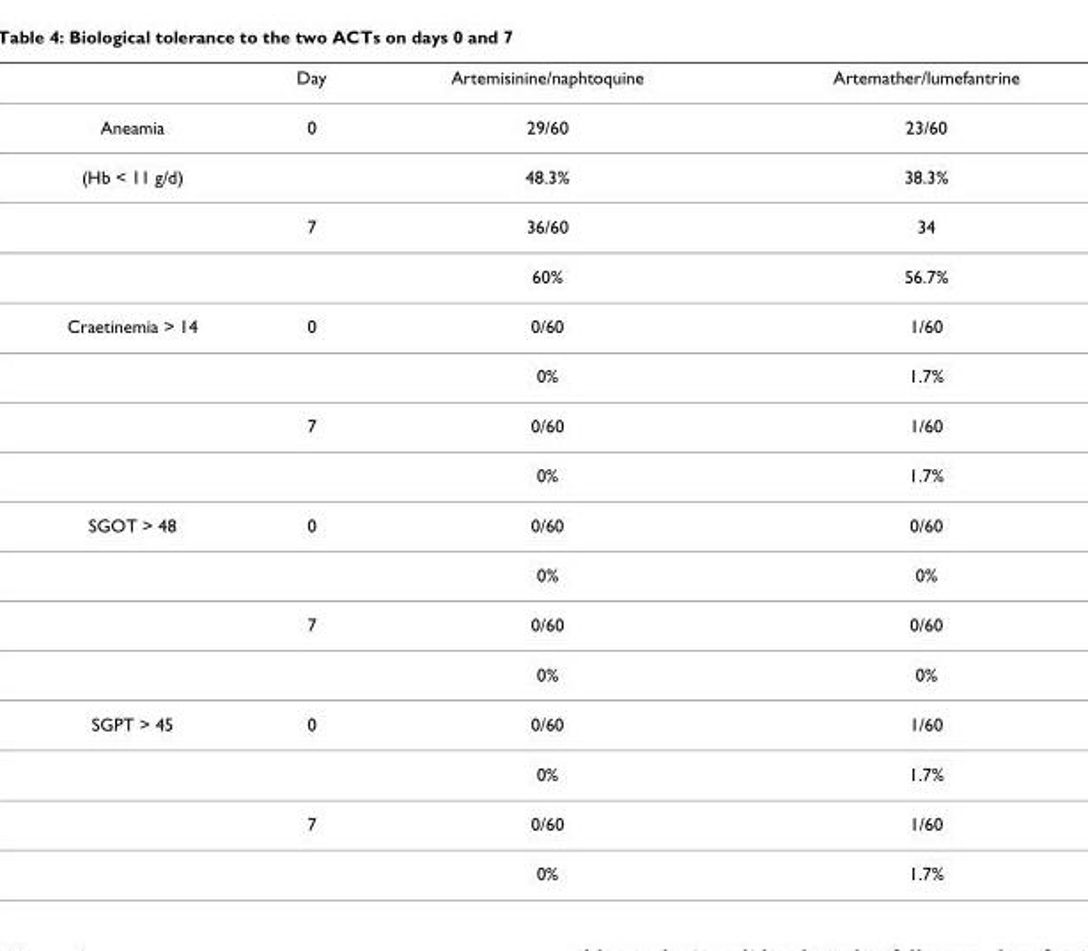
<table><thead><tr><td></td><td>Day</td><td>Artemisinine/naphtoquine</td><td>Artemather/lumefantrine</td></tr></thead><tbody><tr><td>Aneamia</td><td>0</td><td>29/60</td><td>23/60</td></tr><tr><td rowspan="3">(Hb &lt; 11 g/d)</td><td></td><td>48.3%</td><td>38.3%</td></tr><tr><td>7</td><td>36/60</td><td>34</td></tr><tr><td></td><td>60%</td><td>56.7%</td></tr><tr><td rowspan="4">Craetinemia &gt; 14</td><td>0</td><td>0/60</td><td>1/60</td></tr><tr><td></td><td>0%</td><td>1.7%</td></tr><tr><td>7</td><td>0/60</td><td>1/60</td></tr><tr><td></td><td>0%</td><td>1.7%</td></tr><tr><td rowspan="4">SGOT &gt; 48</td><td>0</td><td>0/60</td><td>0/60</td></tr><tr><td></td><td>0%</td><td>0%</td></tr><tr><td>7</td><td>0/60</td><td>0/60</td></tr><tr><td></td><td>0%</td><td>0%</td></tr><tr><td rowspan="4">SGPT &gt; 45</td><td>0</td><td>0/60</td><td>1/60</td></tr><tr><td></td><td>0%</td><td>1.7%</td></tr><tr><td>7</td><td>0/60</td><td>1/60</td></tr><tr><td></td><td>0%</td><td>1.7%</td></tr></tbody></table>